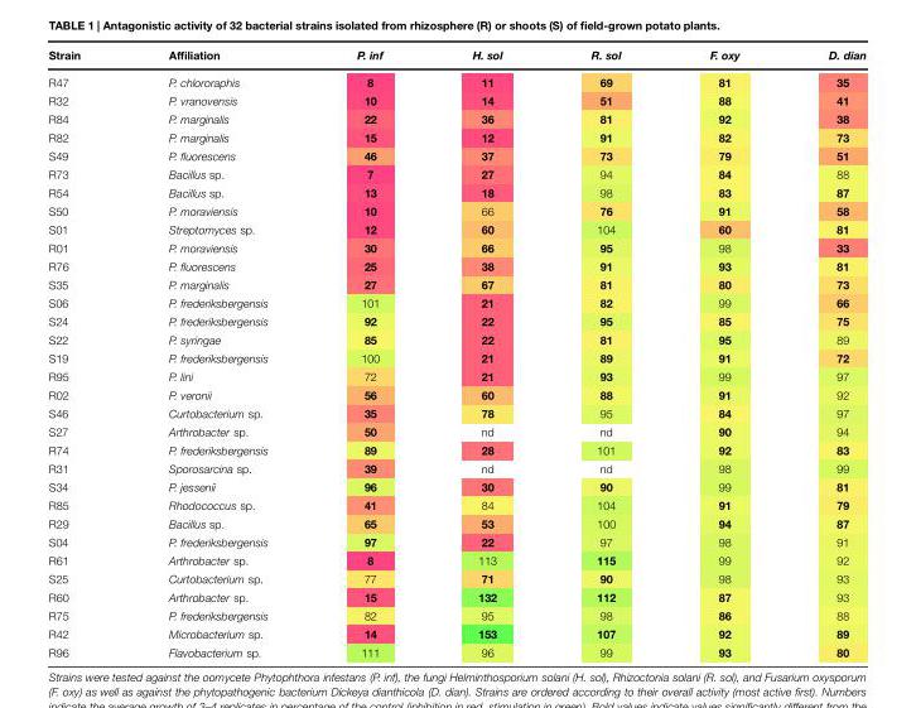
<table><thead><tr><td>Strain</td><td>Affiliation</td><td>P. inf</td><td>H. sol</td><td>R. sol</td><td>F. oxy</td><td>D. dian</td></tr></thead><tbody><tr><td>R47</td><td>P. chlororaphis</td><td>8</td><td>11</td><td>69</td><td>81</td><td>35</td></tr><tr><td>R32</td><td>P. vranovensis</td><td>10</td><td>14</td><td>51</td><td>88</td><td>41</td></tr><tr><td>R84</td><td>P. marginalis</td><td>22</td><td>36</td><td>81</td><td>92</td><td>38</td></tr><tr><td>R82</td><td>P. marginalis</td><td>15</td><td>12</td><td>91</td><td>82</td><td>73</td></tr><tr><td>S49</td><td>P. fluorescens</td><td>46</td><td>37</td><td>73</td><td>79</td><td>51</td></tr><tr><td>R73</td><td>Bacillus sp.</td><td>7</td><td>27</td><td>94</td><td>84</td><td>88</td></tr><tr><td>R54</td><td>Bacillus sp.</td><td>13</td><td>18</td><td>98</td><td>83</td><td>87</td></tr><tr><td>S50</td><td>P. moraviensis</td><td>10</td><td>66</td><td>76</td><td>91</td><td>58</td></tr><tr><td>S01</td><td>Streptomyces sp.</td><td>12</td><td>60</td><td>104</td><td>60</td><td>81</td></tr><tr><td>R01</td><td>P. moraviensis</td><td>30</td><td>66</td><td>95</td><td>98</td><td>33</td></tr><tr><td>R76</td><td>P. fluorescens</td><td>25</td><td>38</td><td>91</td><td>93</td><td>81</td></tr><tr><td>S35</td><td>P. marginalis</td><td>27</td><td>67</td><td>81</td><td>80</td><td>73</td></tr><tr><td>S06</td><td>P. frederiksbergensis</td><td>101</td><td>21</td><td>82</td><td>99</td><td>66</td></tr><tr><td>S24</td><td>P. frederiksbergensis</td><td>92</td><td>22</td><td>95</td><td>85</td><td>75</td></tr><tr><td>S22</td><td>P. syringae</td><td>85</td><td>22</td><td>81</td><td>95</td><td>89</td></tr><tr><td>S19</td><td>P. frederiksbergensis</td><td>100</td><td>21</td><td>89</td><td>91</td><td>72</td></tr><tr><td>R95</td><td>P. lini</td><td>72</td><td>21</td><td>93</td><td>99</td><td>97</td></tr><tr><td>R02</td><td>P. veronii</td><td>56</td><td>60</td><td>88</td><td>91</td><td>92</td></tr><tr><td>S46</td><td>Curtobacterium sp.</td><td>35</td><td>78</td><td>95</td><td>84</td><td>97</td></tr><tr><td>S27</td><td>Arthrobacter sp.</td><td>50</td><td>nd</td><td>nd</td><td>90</td><td>94</td></tr><tr><td>R74</td><td>P. frederiksbergensis</td><td>89</td><td>28</td><td>101</td><td>92</td><td>83</td></tr><tr><td>R31</td><td>Sporosarcina sp.</td><td>39</td><td>nd</td><td>nd</td><td>98</td><td>99</td></tr><tr><td>S34</td><td>P. jessenii</td><td>96</td><td>30</td><td>90</td><td>99</td><td>81</td></tr><tr><td>R85</td><td>Rhodococcus sp.</td><td>41</td><td>84</td><td>104</td><td>91</td><td>79</td></tr><tr><td>R29</td><td>Bacillus sp.</td><td>65</td><td>53</td><td>100</td><td>94</td><td>87</td></tr><tr><td>S04</td><td>P. frederiksbergensis</td><td>97</td><td>22</td><td>97</td><td>98</td><td>91</td></tr><tr><td>R61</td><td>Arthrobacter sp.</td><td>8</td><td>113</td><td>115</td><td>99</td><td>92</td></tr><tr><td>S25</td><td>Curtobacterium sp.</td><td>77</td><td>71</td><td>90</td><td>98</td><td>93</td></tr><tr><td>R60</td><td>Arthrobacter sp.</td><td>15</td><td>132</td><td>112</td><td>87</td><td>93</td></tr><tr><td>R75</td><td>P. frederiksbergensis</td><td>82</td><td>95</td><td>98</td><td>86</td><td>88</td></tr><tr><td>R42</td><td>Microbacterium sp.</td><td>14</td><td>153</td><td>107</td><td>92</td><td>89</td></tr><tr><td>R96</td><td>Flavobacterium sp.</td><td>111</td><td>96</td><td>99</td><td>93</td><td>80</td></tr></tbody></table>